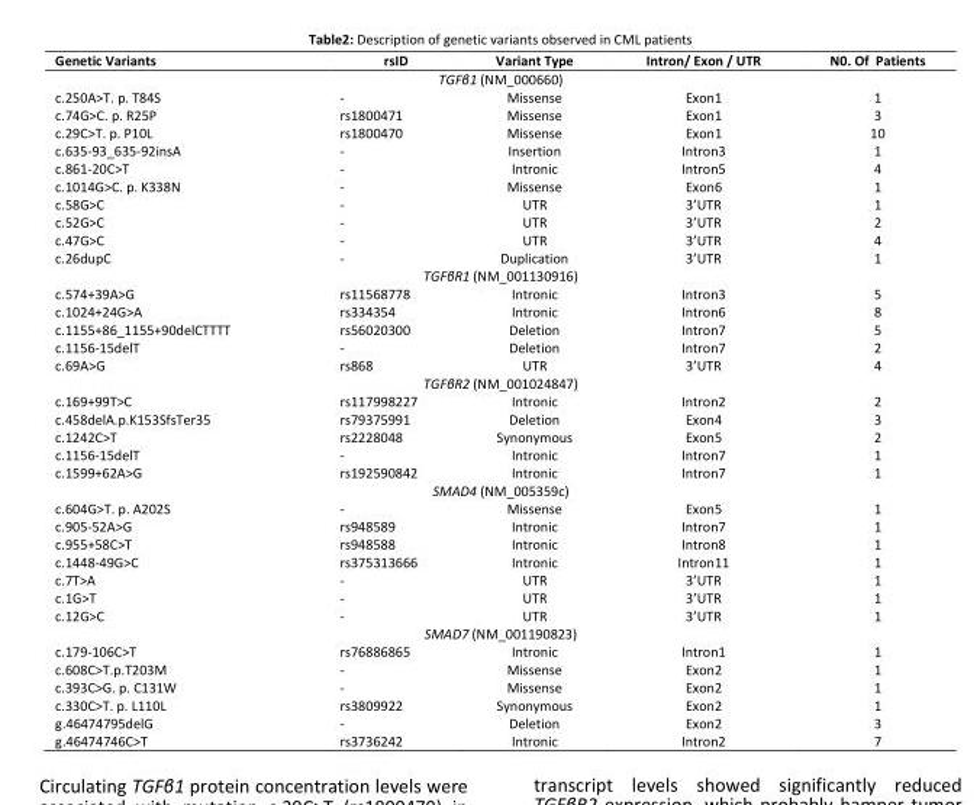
<table><thead><tr><td>Genetic Variants</td><td>rsID</td><td>Variant Type</td><td>Intron/ Exon / UTR</td><td>N0. Of Patients</td></tr></thead><tbody><tr><td colspan="5">TGFβ1 (NM_000660)</td></tr><tr><td>c.250A&gt;T. p. T84S</td><td>-</td><td>Missense</td><td>Exon1</td><td>1</td></tr><tr><td>c.74G&gt;C. p. R25P</td><td>rs1800471</td><td>Missense</td><td>Exon1</td><td>3</td></tr><tr><td>c.29C&gt;T. p. P10L</td><td>rs1800470</td><td>Missense</td><td>Exon1</td><td>10</td></tr><tr><td>c.635-93_635-92insA</td><td>-</td><td>Insertion</td><td>Intron3</td><td>1</td></tr><tr><td>c.861-20C&gt;T</td><td>-</td><td>Intronic</td><td>Intron5</td><td>4</td></tr><tr><td>c.1014G&gt;C. p. K338N</td><td>-</td><td>Missense</td><td>Exon6</td><td>1</td></tr><tr><td>c.58G&gt;C</td><td>-</td><td>UTR</td><td>3’UTR</td><td>1</td></tr><tr><td>c.52G&gt;C</td><td>-</td><td>UTR</td><td>3’UTR</td><td>2</td></tr><tr><td>c.47G&gt;C</td><td>-</td><td>UTR</td><td>3’UTR</td><td>4</td></tr><tr><td>c.26dupC</td><td>-</td><td>Duplication</td><td>3’UTR</td><td>1</td></tr><tr><td colspan="5">TGFβR1 (NM_001130916)</td></tr><tr><td>c.574+39A&gt;G</td><td>rs11568778</td><td>Intronic</td><td>Intron3</td><td>5</td></tr><tr><td>c.1024+24G&gt;A</td><td>rs334354</td><td>Intronic</td><td>Intron6</td><td>8</td></tr><tr><td>c.1155+86_1155+90delCTTTT</td><td>rs56020300</td><td>Deletion</td><td>Intron7</td><td>5</td></tr><tr><td>c.1156-15delT</td><td>-</td><td>Deletion</td><td>Intron7</td><td>2</td></tr><tr><td>c.69A&gt;G</td><td>rs868</td><td>UTR</td><td>3’UTR</td><td>4</td></tr><tr><td colspan="5">TGFβR2 (NM_001024847)</td></tr><tr><td>c.169+99T&gt;C</td><td>rs117998227</td><td>Intronic</td><td>Intron2</td><td>2</td></tr><tr><td>c.458delA.p.K153SfsTer35</td><td>rs79375991</td><td>Deletion</td><td>Exon4</td><td>3</td></tr><tr><td>c.1242C&gt;T</td><td>rs2228048</td><td>Synonymous</td><td>Exon5</td><td>2</td></tr><tr><td>c.1156-15delT</td><td>-</td><td>Intronic</td><td>Intron7</td><td>1</td></tr><tr><td>c.1599+62A&gt;G</td><td>rs192590842</td><td>Intronic</td><td>Intron7</td><td>1</td></tr><tr><td colspan="5">SMAD4 (NM_005359c)</td></tr><tr><td>c.604G&gt;T. p. A202S</td><td>-</td><td>Missense</td><td>Exon5</td><td>1</td></tr><tr><td>c.905-52A&gt;G</td><td>rs948589</td><td>Intronic</td><td>Intron7</td><td>1</td></tr><tr><td>c.955+58C&gt;T</td><td>rs948588</td><td>Intronic</td><td>Intron8</td><td>1</td></tr><tr><td>c.1448-49G&gt;C</td><td>rs375313666</td><td>Intronic</td><td>Intron11</td><td>1</td></tr><tr><td>c.7T&gt;A</td><td>-</td><td>UTR</td><td>3’UTR</td><td>1</td></tr><tr><td>c.1G&gt;T</td><td>-</td><td>UTR</td><td>3’UTR</td><td>1</td></tr><tr><td>c.12G&gt;C</td><td>-</td><td>UTR</td><td>3’UTR</td><td>1</td></tr><tr><td colspan="5">SMAD7 (NM_001190823)</td></tr><tr><td>c.179-106C&gt;T</td><td>rs76886865</td><td>Intronic</td><td>Intron1</td><td>1</td></tr><tr><td>c.608C&gt;T.p.T203M</td><td>-</td><td>Missense</td><td>Exon2</td><td>1</td></tr><tr><td>c.393C&gt;G. p. C131W</td><td>-</td><td>Missense</td><td>Exon2</td><td>1</td></tr><tr><td>c.330C&gt;T. p. L110L</td><td>rs3809922</td><td>Synonymous</td><td>Exon2</td><td>1</td></tr><tr><td>g.46474795delG</td><td>-</td><td>Deletion</td><td>Exon2</td><td>3</td></tr><tr><td>g.46474746C&gt;T</td><td>rs3736242</td><td>Intronic</td><td>Intron2</td><td>7</td></tr></tbody></table>